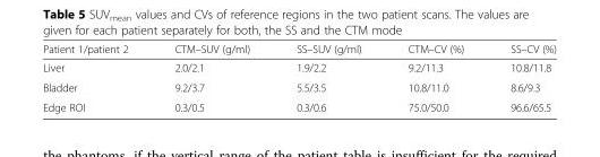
<table><thead><tr><td>Patient 1/patient 2</td><td>CTM–SUV (g/ml)</td><td>SS–SUV (g/ml)</td><td>CTM–CV (%)</td><td>SS–CV (%)</td></tr></thead><tbody><tr><td>Liver</td><td>2.0/2.1</td><td>1.9/2.2</td><td>9.2/11.3</td><td>10.8/11.8</td></tr><tr><td>Bladder</td><td>9.2/3.7</td><td>5.5/3.5</td><td>10.8/11.0</td><td>8.6/9.3</td></tr><tr><td>Edge ROI</td><td>0.3/0.5</td><td>0.3/0.6</td><td>75.0/50.0</td><td>96.6/65.5</td></tr></tbody></table>